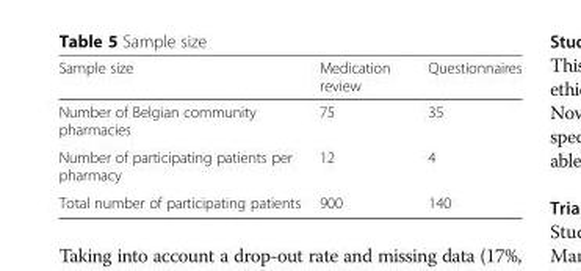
<table><thead><tr><td>Sample size</td><td>Medication review</td><td>Questionnaires</td></tr></thead><tbody><tr><td>Number of Belgian community pharmacies</td><td>75</td><td>35</td></tr><tr><td>Number of participating patients per pharmacy</td><td>12</td><td>4</td></tr><tr><td>Total number of participating patients</td><td>900</td><td>140</td></tr></tbody></table>